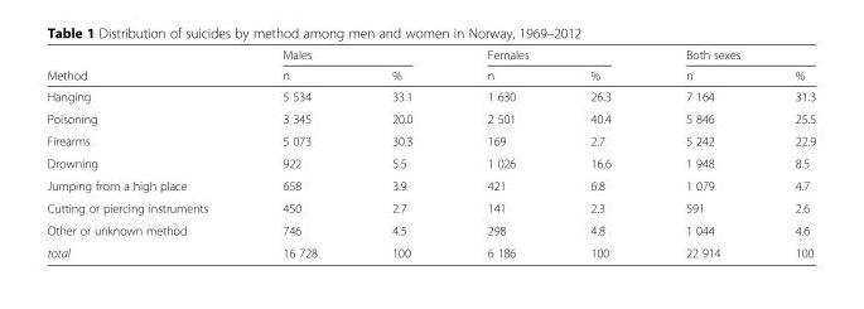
<table><thead><tr><td rowspan="2">Method</td><td colspan="2">Males</td><td colspan="2">Females</td><td colspan="2">Both sexes</td></tr><tr><td>n</td><td>%</td><td>n</td><td>%</td><td>n</td><td>%</td></tr></thead><tbody><tr><td>Hanging</td><td>5 534</td><td>33.1</td><td>1 630</td><td>26.3</td><td>7 164</td><td>31.3</td></tr><tr><td>Poisoning</td><td>3 345</td><td>20.0</td><td>2 501</td><td>40.4</td><td>5 846</td><td>25.5</td></tr><tr><td>Firearms</td><td>5 073</td><td>30.3</td><td>169</td><td>2.7</td><td>5 242</td><td>22.9</td></tr><tr><td>Drowning</td><td>922</td><td>5.5</td><td>1 026</td><td>16.6</td><td>1 948</td><td>8.5</td></tr><tr><td>Jumping from a high place</td><td>658</td><td>3.9</td><td>421</td><td>6.8</td><td>1 079</td><td>4.7</td></tr><tr><td>Cutting or piercing instruments</td><td>450</td><td>2.7</td><td>141</td><td>2.3</td><td>591</td><td>2.6</td></tr><tr><td>Other or unknown method</td><td>746</td><td>4.5</td><td>298</td><td>4.8</td><td>1 044</td><td>4.6</td></tr><tr><td>total</td><td>16 728</td><td>100</td><td>6 186</td><td>100</td><td>22 914</td><td>100</td></tr></tbody></table>